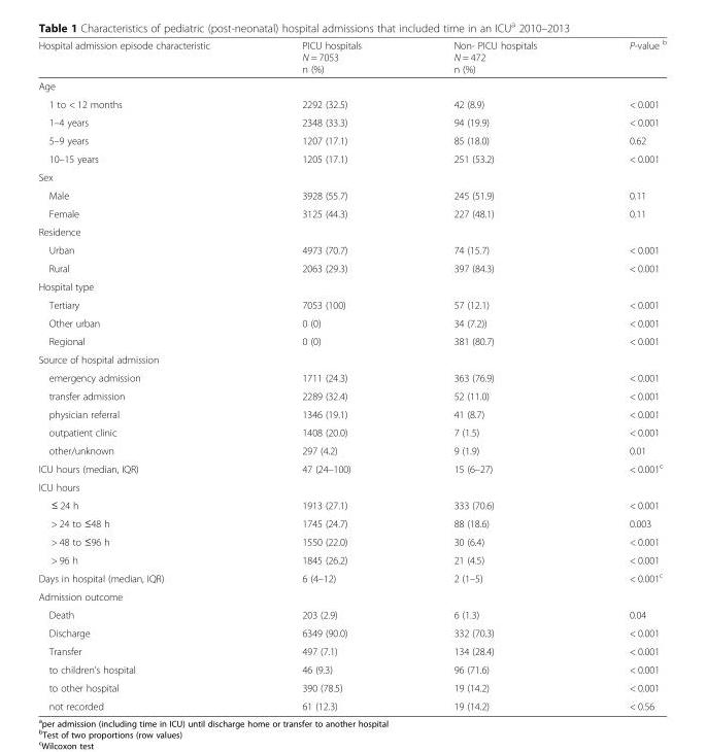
<table><thead><tr><td>Hospital admission episode characteristic</td><td>PICU hospitals N = 7053 n (%)</td><td>Non- PICU hospitals N = 472 n (%)</td><td>P-value <sup>b</sup></td></tr></thead><tbody><tr><td colspan="4">Age</td></tr><tr><td>1 to &lt; 12 months</td><td>2292 (32.5)</td><td>42 (8.9)</td><td>&lt; 0.001</td></tr><tr><td>1–4 years</td><td>2348 (33.3)</td><td>94 (19.9)</td><td>&lt; 0.001</td></tr><tr><td>5–9 years</td><td>1207 (17.1)</td><td>85 (18.0)</td><td>0.62</td></tr><tr><td>10–15 years</td><td>1205 (17.1)</td><td>251 (53.2)</td><td>&lt; 0.001</td></tr><tr><td colspan="4">Sex</td></tr><tr><td>Male</td><td>3928 (55.7)</td><td>245 (51.9)</td><td>0.11</td></tr><tr><td>Female</td><td>3125 (44.3)</td><td>227 (48.1)</td><td>0.11</td></tr><tr><td colspan="4">Residence</td></tr><tr><td>Urban</td><td>4973 (70.7)</td><td>74 (15.7)</td><td>&lt; 0.001</td></tr><tr><td>Rural</td><td>2063 (29.3)</td><td>397 (84.3)</td><td>&lt; 0.001</td></tr><tr><td colspan="4">Hospital type</td></tr><tr><td>Tertiary</td><td>7053 (100)</td><td>57 (12.1)</td><td>&lt; 0.001</td></tr><tr><td>Other urban</td><td>0 (0)</td><td>34 (7.2))</td><td>&lt; 0.001</td></tr><tr><td>Regional</td><td>0 (0)</td><td>381 (80.7)</td><td>&lt; 0.001</td></tr><tr><td colspan="4">Source of hospital admission</td></tr><tr><td>emergency admission</td><td>1711 (24.3)</td><td>363 (76.9)</td><td>&lt; 0.001</td></tr><tr><td>transfer admission</td><td>2289 (32.4)</td><td>52 (11.0)</td><td>&lt; 0.001</td></tr><tr><td>physician referral</td><td>1346 (19.1)</td><td>41 (8.7)</td><td>&lt; 0.001</td></tr><tr><td>outpatient clinic</td><td>1408 (20.0)</td><td>7 (1.5)</td><td>&lt; 0.001</td></tr><tr><td>other/unknown</td><td>297 (4.2)</td><td>9 (1.9)</td><td>0.01</td></tr><tr><td>ICU hours (median, IQR)</td><td>47 (24–100)</td><td>15 (6–27)</td><td>&lt; 0.001<sup>c</sup></td></tr><tr><td colspan="4">ICU hours</td></tr><tr><td>≤ 24 h</td><td>1913 (27.1)</td><td>333 (70.6)</td><td>&lt; 0.001</td></tr><tr><td>&gt; 24 to ≤48 h</td><td>1745 (24.7)</td><td>88 (18.6)</td><td>0.003</td></tr><tr><td>&gt; 48 to ≤96 h</td><td>1550 (22.0)</td><td>30 (6.4)</td><td>&lt; 0.001</td></tr><tr><td>&gt; 96 h</td><td>1845 (26.2)</td><td>21 (4.5)</td><td>&lt; 0.001</td></tr><tr><td>Days in hospital (median, IQR)</td><td>6 (4–12)</td><td>2 (1–5)</td><td>&lt; 0.001<sup>c</sup></td></tr><tr><td colspan="4">Admission outcome</td></tr><tr><td>Death</td><td>203 (2.9)</td><td>6 (1.3)</td><td>0.04</td></tr><tr><td>Discharge</td><td>6349 (90.0)</td><td>332 (70.3)</td><td>&lt; 0.001</td></tr><tr><td>Transfer</td><td>497 (7.1)</td><td>134 (28.4)</td><td>&lt; 0.001</td></tr><tr><td>to children’s hospital</td><td>46 (9.3)</td><td>96 (71.6)</td><td>&lt; 0.001</td></tr><tr><td>to other hospital</td><td>390 (78.5)</td><td>19 (14.2)</td><td>&lt; 0.001</td></tr><tr><td>not recorded</td><td>61 (12.3)</td><td>19 (14.2)</td><td>&lt; 0.56</td></tr></tbody></table>